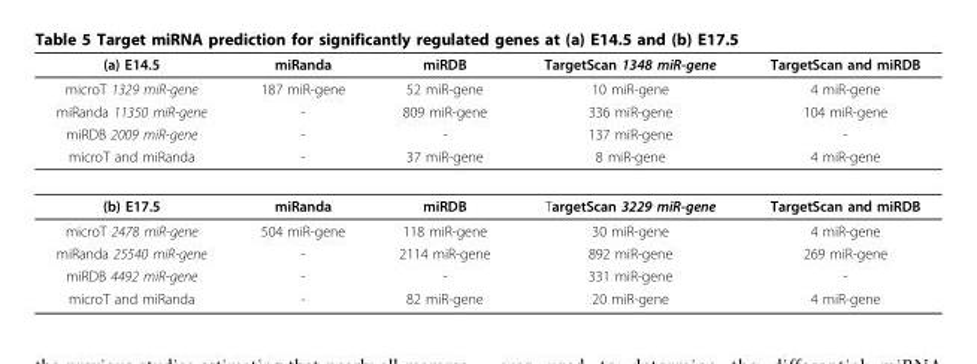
<table><thead><tr><td>(a) E14.5</td><td>miRanda</td><td>miRDB</td><td>TargetScan 1348 miR-gene</td><td>TargetScan and miRDB</td></tr></thead><tbody><tr><td>microT 1329 miR-gene</td><td>187 miR-gene</td><td>52 miR-gene</td><td>10 miR-gene</td><td>4 miR-gene</td></tr><tr><td>miRanda 11350 miR-gene</td><td>-</td><td>809 miR-gene</td><td>336 miR-gene</td><td>104 miR-gene</td></tr><tr><td>miRDB 2009 miR-gene</td><td>-</td><td>-</td><td>137 miR-gene</td><td>-</td></tr><tr><td>microT and miRanda</td><td>-</td><td>37 miR-gene</td><td>8 miR-gene</td><td>4 miR-gene</td></tr><tr><td>(b) E17.5</td><td>miRanda</td><td>miRDB</td><td>TargetScan 3229 miR-gene</td><td>TargetScan and miRDB</td></tr><tr><td>microT 2478 miR-gene</td><td>504 miR-gene</td><td>118 miR-gene</td><td>30 miR-gene</td><td>4 miR-gene</td></tr><tr><td>miRanda 25540 miR-gene</td><td>-</td><td>2114 miR-gene</td><td>892 miR-gene</td><td>269 miR-gene</td></tr><tr><td>miRDB 4492 miR-gene</td><td>-</td><td>-</td><td>331 miR-gene</td><td>-</td></tr><tr><td>microT and miRanda</td><td>-</td><td>82 miR-gene</td><td>20 miR-gene</td><td>4 miR-gene</td></tr></tbody></table>